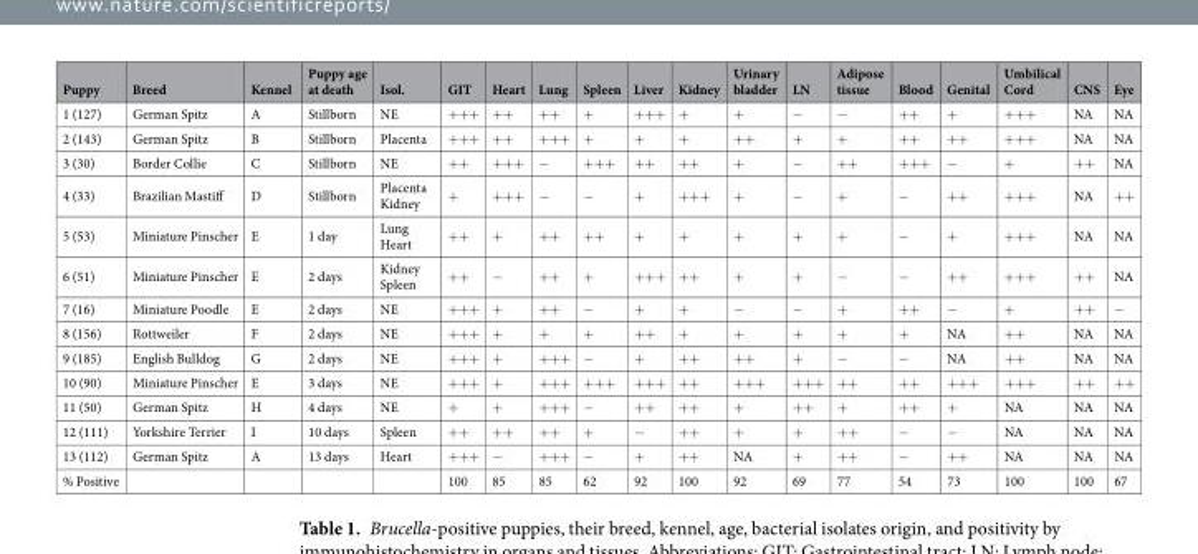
<table><thead><tr><td>Puppy</td><td>Breed</td><td>Kennel</td><td>Puppy age at death</td><td>Isol.</td><td>GIT</td><td>Heart</td><td>Lung</td><td>Spleen</td><td>Liver</td><td>Kidney</td><td>Urinary bladder</td><td>LN</td><td>Adipose tissue</td><td>Blood</td><td>Genital</td><td>Umbilical Cord</td><td>CNS</td><td>Eye</td></tr></thead><tbody><tr><td>1 (127)</td><td>German Spitz</td><td>A</td><td>Stillborn</td><td>NE</td><td>+++</td><td>++</td><td>++</td><td>+</td><td>+++</td><td>+</td><td>+</td><td>−</td><td>−</td><td>++</td><td>+</td><td>+++</td><td>NA</td><td>NA</td></tr><tr><td>2 (143)</td><td>German Spitz</td><td>B</td><td>Stillborn</td><td>Placenta</td><td>+++</td><td>++</td><td>+++</td><td>+</td><td>+</td><td>+</td><td>++</td><td>+</td><td>+</td><td>++</td><td>++</td><td>+++</td><td>NA</td><td>NA</td></tr><tr><td>3 (30)</td><td>Border Collie</td><td>C</td><td>Stillborn</td><td>NE</td><td>++</td><td>+++</td><td>−</td><td>+++</td><td>++</td><td>++</td><td>+</td><td>−</td><td>++</td><td>+++</td><td>−</td><td>+</td><td>++</td><td>NA</td></tr><tr><td>4 (33)</td><td>Brazilian Mastiff</td><td>D</td><td>Stillborn</td><td>Placenta Kidney</td><td>+</td><td>+++</td><td>−</td><td>−</td><td>+</td><td>+++</td><td>+</td><td>−</td><td>+</td><td>−</td><td>++</td><td>+++</td><td>NA</td><td>++</td></tr><tr><td>5 (53)</td><td>Miniature Pinscher</td><td>E</td><td>1 day</td><td>Lung Heart</td><td>++</td><td>+</td><td>++</td><td>++</td><td>+</td><td>+</td><td>+</td><td>+</td><td>+</td><td>−</td><td>+</td><td>+++</td><td>NA</td><td>NA</td></tr><tr><td>6 (51)</td><td>Miniature Pinscher</td><td>E</td><td>2 days</td><td>Kidney Spleen</td><td>++</td><td>−</td><td>++</td><td>+</td><td>+++</td><td>++</td><td>+</td><td>+</td><td>−</td><td>−</td><td>++</td><td>+++</td><td>++</td><td>NA</td></tr><tr><td>7 (16)</td><td>Miniature Poodle</td><td>E</td><td>2 days</td><td>NE</td><td>+++</td><td>+</td><td>++</td><td>−</td><td>+</td><td>+</td><td>−</td><td>−</td><td>+</td><td>++</td><td>−</td><td>+</td><td>++</td><td>−</td></tr><tr><td>8 (156)</td><td>Rottweiler</td><td>F</td><td>2 days</td><td>NE</td><td>+++</td><td>+</td><td>+</td><td>+</td><td>++</td><td>+</td><td>+</td><td>+</td><td>+</td><td>+</td><td>NA</td><td>++</td><td>NA</td><td>NA</td></tr><tr><td>9 (185)</td><td>English Bulldog</td><td>G</td><td>2 days</td><td>NE</td><td>+++</td><td>+</td><td>+++</td><td>−</td><td>+</td><td>++</td><td>++</td><td>+</td><td>−</td><td>−</td><td>NA</td><td>++</td><td>NA</td><td>NA</td></tr><tr><td>10 (90)</td><td>Miniature Pinscher</td><td>E</td><td>3 days</td><td>NE</td><td>+++</td><td>+</td><td>+++</td><td>+++</td><td>+++</td><td>++</td><td>+++</td><td>+++</td><td>++</td><td>++</td><td>+++</td><td>+++</td><td>++</td><td>++</td></tr><tr><td>11 (50)</td><td>German Spitz</td><td>H</td><td>4 days</td><td>NE</td><td>+</td><td>+</td><td>+++</td><td>−</td><td>++</td><td>++</td><td>+</td><td>++</td><td>+</td><td>++</td><td>+</td><td>NA</td><td>NA</td><td>NA</td></tr><tr><td>12 (111)</td><td>Yorkshire Terrier</td><td>I</td><td>10 days</td><td>Spleen</td><td>++</td><td>++</td><td>++</td><td>+</td><td>−</td><td>++</td><td>+</td><td>+</td><td>++</td><td>−</td><td>−</td><td>NA</td><td>NA</td><td>NA</td></tr><tr><td>13 (112)</td><td>German Spitz</td><td>A</td><td>13 days</td><td>Heart</td><td>+++</td><td>−</td><td>+++</td><td>−</td><td>+</td><td>++</td><td>NA</td><td>+</td><td>++</td><td>−</td><td>++</td><td>NA</td><td>NA</td><td>NA</td></tr><tr><td>% Positive</td><td></td><td></td><td></td><td></td><td>100</td><td>85</td><td>85</td><td>62</td><td>92</td><td>100</td><td>92</td><td>69</td><td>77</td><td>54</td><td>73</td><td>100</td><td>100</td><td>67</td></tr></tbody></table>